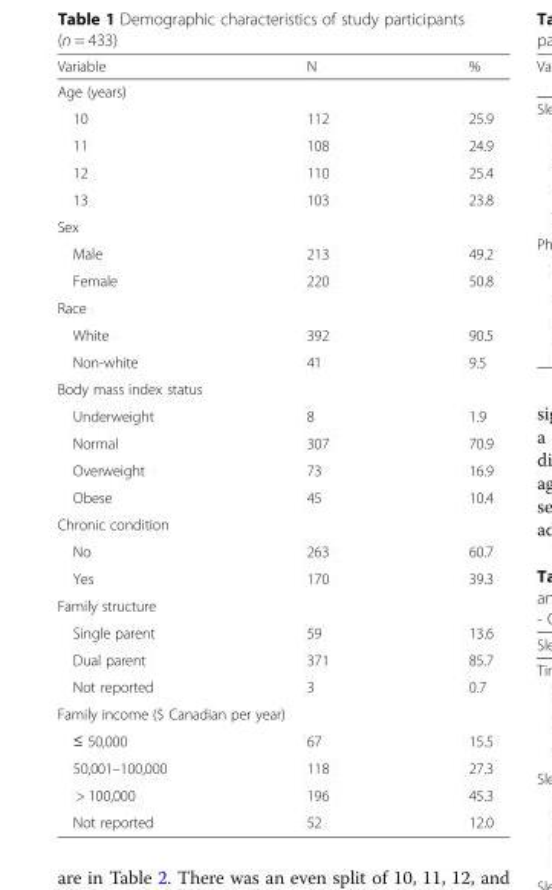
<table><thead><tr><td>Variable</td><td>N</td><td>%</td></tr></thead><tbody><tr><td colspan="3">Age (years)</td></tr><tr><td>10</td><td>112</td><td>25.9</td></tr><tr><td>11</td><td>108</td><td>24.9</td></tr><tr><td>12</td><td>110</td><td>25.4</td></tr><tr><td>13</td><td>103</td><td>23.8</td></tr><tr><td colspan="3">Sex</td></tr><tr><td>Male</td><td>213</td><td>49.2</td></tr><tr><td>Female</td><td>220</td><td>50.8</td></tr><tr><td colspan="3">Race</td></tr><tr><td>White</td><td>392</td><td>90.5</td></tr><tr><td>Non-white</td><td>41</td><td>9.5</td></tr><tr><td colspan="3">Body mass index status</td></tr><tr><td>Underweight</td><td>8</td><td>1.9</td></tr><tr><td>Normal</td><td>307</td><td>70.9</td></tr><tr><td>Overweight</td><td>73</td><td>16.9</td></tr><tr><td>Obese</td><td>45</td><td>10.4</td></tr><tr><td colspan="3">Chronic condition</td></tr><tr><td>No</td><td>263</td><td>60.7</td></tr><tr><td>Yes</td><td>170</td><td>39.3</td></tr><tr><td colspan="3">Family structure</td></tr><tr><td>Single parent</td><td>59</td><td>13.6</td></tr><tr><td>Dual parent</td><td>371</td><td>85.7</td></tr><tr><td>Not reported</td><td>3</td><td>0.7</td></tr><tr><td colspan="3">Family income ($ Canadian per year)</td></tr><tr><td>≤ 50,000</td><td>67</td><td>15.5</td></tr><tr><td>50,001–100,000</td><td>118</td><td>27.3</td></tr><tr><td>&gt; 100,000</td><td>196</td><td>45.3</td></tr><tr><td>Not reported</td><td>52</td><td>12.0</td></tr></tbody></table>